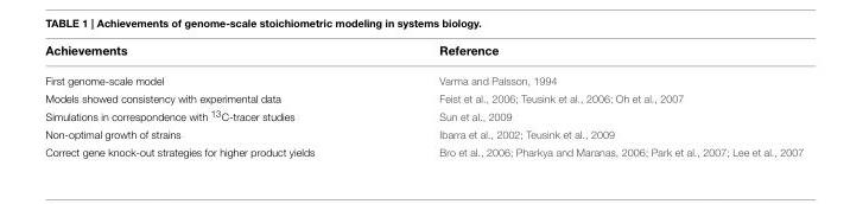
<table><thead><tr><td>Achievements</td><td>Reference</td></tr></thead><tbody><tr><td>First genome-scale model</td><td>Varma and Palsson, 1994</td></tr><tr><td>Models showed consistency with experimental data</td><td>Feist et al., 2006; Teusink et al., 2006; Oh et al., 2007</td></tr><tr><td>Simulations in correspondence with <sup>13</sup>C-tracer studies</td><td>Sun et al., 2009</td></tr><tr><td>Non-optimal growth of strains</td><td>Ibarra et al., 2002; Teusink et al., 2009</td></tr><tr><td>Correct gene knock-out strategies for higher product yields</td><td>Bro et al., 2006; Pharkya and Maranas, 2006; Park et al., 2007; Lee et al., 2007</td></tr></tbody></table>